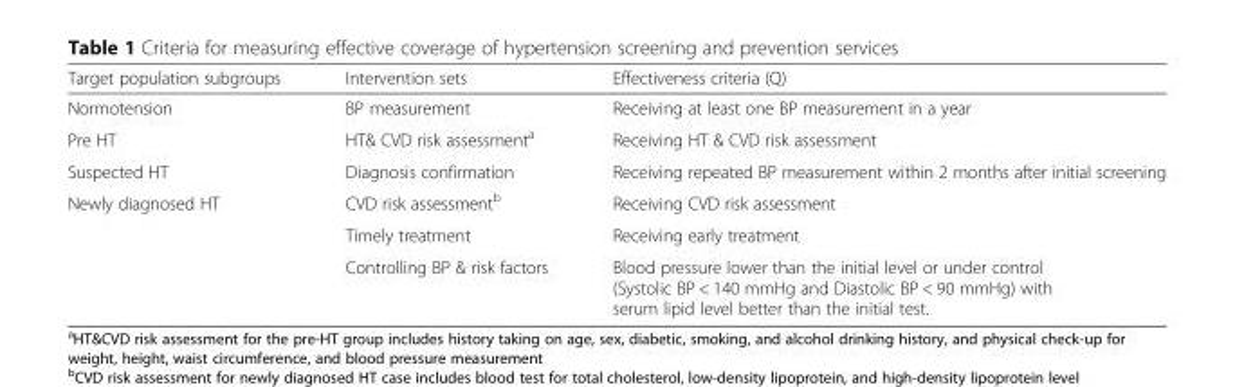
<table><thead><tr><td>Target population subgroups</td><td>Intervention sets</td><td>Effectiveness criteria (Q)</td></tr></thead><tbody><tr><td>Normotension</td><td>BP measurement</td><td>Receiving at least one BP measurement in a year</td></tr><tr><td>Pre HT</td><td>HT&amp; CVD risk assessment<sup>a</sup></td><td>Receiving HT &amp; CVD risk assessment</td></tr><tr><td>Suspected HT</td><td>Diagnosis confirmation</td><td>Receiving repeated BP measurement within 2 months after initial screening</td></tr><tr><td rowspan="3">Newly diagnosed HT</td><td>CVD risk assessment<sup>b</sup></td><td>Receiving CVD risk assessment</td></tr><tr><td>Timely treatment</td><td>Receiving early treatment</td></tr><tr><td>Controlling BP &amp; risk factors</td><td>Blood pressure lower than the initial level or under control (Systolic BP &lt; 140 mmHg and Diastolic BP &lt; 90 mmHg) with serum lipid level better than the initial test.</td></tr></tbody></table>